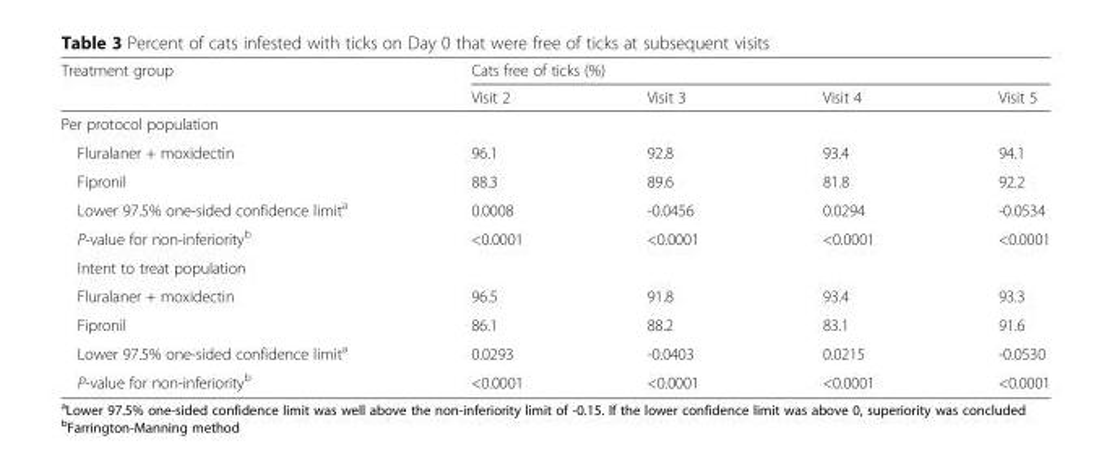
<table><thead><tr><td rowspan="2">Treatment group</td><td colspan="4">Cats free of ticks (%)</td></tr><tr><td>Visit 2</td><td>Visit 3</td><td>Visit 4</td><td>Visit 5</td></tr></thead><tbody><tr><td colspan="5">Per protocol population</td></tr><tr><td>Fluralaner + moxidectin</td><td>96.1</td><td>92.8</td><td>93.4</td><td>94.1</td></tr><tr><td>Fipronil</td><td>88.3</td><td>89.6</td><td>81.8</td><td>92.2</td></tr><tr><td>Lower 97.5% one-sided confidence limit<sup>a</sup></td><td>0.0008</td><td>-0.0456</td><td>0.0294</td><td>-0.0534</td></tr><tr><td>P-value for non-inferiority<sup>b</sup></td><td>&lt;0.0001</td><td>&lt;0.0001</td><td>&lt;0.0001</td><td>&lt;0.0001</td></tr><tr><td colspan="5">Intent to treat population</td></tr><tr><td>Fluralaner + moxidectin</td><td>96.5</td><td>91.8</td><td>93.4</td><td>93.3</td></tr><tr><td>Fipronil</td><td>86.1</td><td>88.2</td><td>83.1</td><td>91.6</td></tr><tr><td>Lower 97.5% one-sided confidence limit<sup>a</sup></td><td>0.0293</td><td>-0.0403</td><td>0.0215</td><td>-0.0530</td></tr><tr><td>P-value for non-inferiority<sup>b</sup></td><td>&lt;0.0001</td><td>&lt;0.0001</td><td>&lt;0.0001</td><td>&lt;0.0001</td></tr></tbody></table>